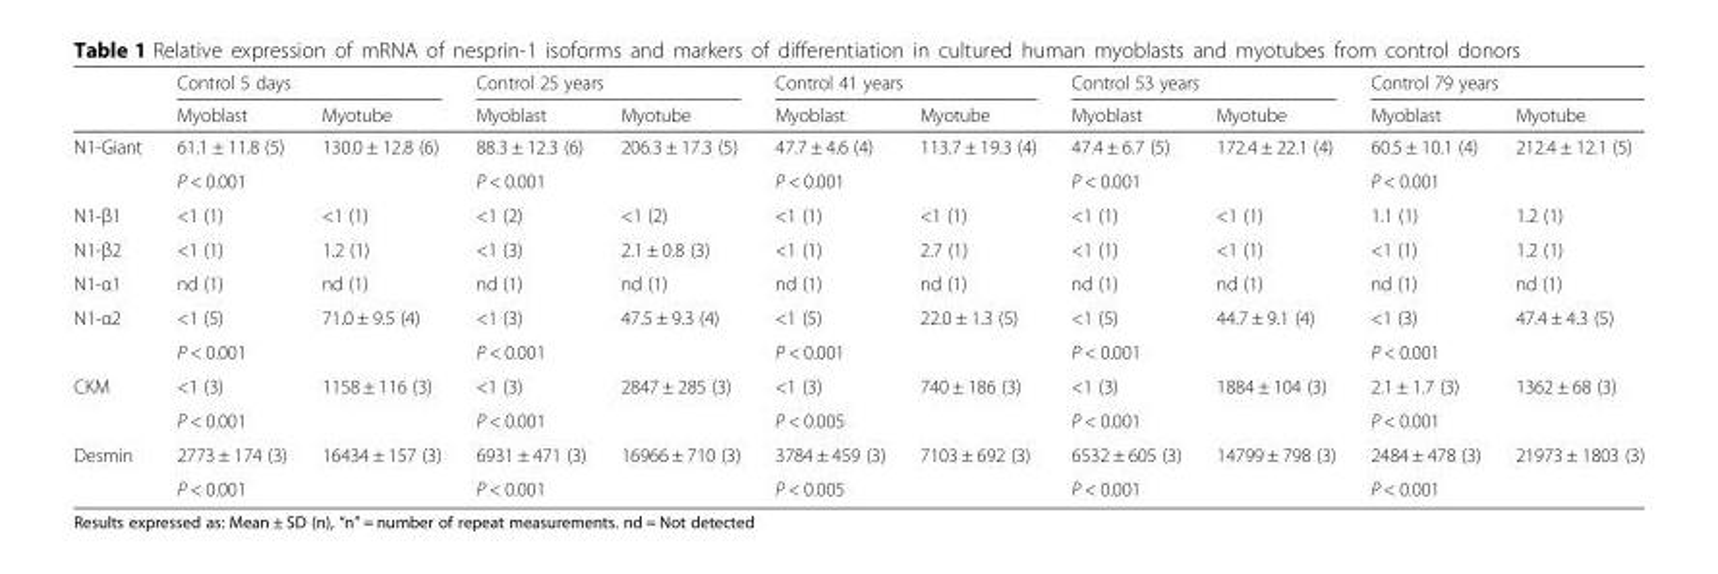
<table><thead><tr><td rowspan="2"></td><td colspan="2">Control 5 days</td><td colspan="2">Control 25 years</td><td colspan="2">Control 41 years</td><td colspan="2">Control 53 years</td><td colspan="2">Control 79 years</td></tr><tr><td>Myoblast</td><td>Myotube</td><td>Myoblast</td><td>Myotube</td><td>Myoblast</td><td>Myotube</td><td>Myoblast</td><td>Myotube</td><td>Myoblast</td><td>Myotube</td></tr></thead><tbody><tr><td rowspan="2">N1-Giant</td><td>61.1 ± 11.8 (5)</td><td>130.0 ± 12.8 (6)</td><td>88.3 ± 12.3 (6)</td><td>206.3 ± 17.3 (5)</td><td>47.7 ± 4.6 (4)</td><td>113.7 ± 19.3 (4)</td><td>47.4 ± 6.7 (5)</td><td>172.4 ± 22.1 (4)</td><td>60.5 ± 10.1 (4)</td><td>212.4 ± 12.1 (5)</td></tr><tr><td colspan="2">P &lt; 0.001</td><td colspan="2">P &lt; 0.001</td><td colspan="2">P &lt; 0.001</td><td colspan="2">P &lt; 0.001</td><td colspan="2">P &lt; 0.001</td></tr><tr><td>N1-β1</td><td>&lt;1 (1)</td><td>&lt;1 (1)</td><td>&lt;1 (2)</td><td>&lt;1 (2)</td><td>&lt;1 (1)</td><td>&lt;1 (1)</td><td>&lt;1 (1)</td><td>&lt;1 (1)</td><td>1.1 (1)</td><td>1.2 (1)</td></tr><tr><td>N1-β2</td><td>&lt;1 (1)</td><td>1.2 (1)</td><td>&lt;1 (3)</td><td>2.1 ± 0.8 (3)</td><td>&lt;1 (1)</td><td>2.7 (1)</td><td>&lt;1 (1)</td><td>&lt;1 (1)</td><td>&lt;1 (1)</td><td>1.2 (1)</td></tr><tr><td>N1-α1</td><td>nd (1)</td><td>nd (1)</td><td>nd (1)</td><td>nd (1)</td><td>nd (1)</td><td>nd (1)</td><td>nd (1)</td><td>nd (1)</td><td>nd (1)</td><td>nd (1)</td></tr><tr><td rowspan="2">N1-α2</td><td>&lt;1 (5)</td><td>71.0 ± 9.5 (4)</td><td>&lt;1 (3)</td><td>47.5 ± 9.3 (4)</td><td>&lt;1 (5)</td><td>22.0 ± 1.3 (5)</td><td>&lt;1 (5)</td><td>44.7 ± 9.1 (4)</td><td>&lt;1 (3)</td><td>47.4 ± 4.3 (5)</td></tr><tr><td colspan="2">P &lt; 0.001</td><td colspan="2">P &lt; 0.001</td><td colspan="2">P &lt; 0.001</td><td colspan="2">P &lt; 0.001</td><td colspan="2">P &lt; 0.001</td></tr><tr><td rowspan="2">CKM</td><td>&lt;1 (3)</td><td>1158 ± 116 (3)</td><td>&lt;1 (3)</td><td>2847 ± 285 (3)</td><td>&lt;1 (3)</td><td>740 ± 186 (3)</td><td>&lt;1 (3)</td><td>1884 ± 104 (3)</td><td>2.1 ± 1.7 (3)</td><td>1362 ± 68 (3)</td></tr><tr><td colspan="2">P &lt; 0.001</td><td colspan="2">P &lt; 0.001</td><td colspan="2">P &lt; 0.005</td><td colspan="2">P &lt; 0.001</td><td colspan="2">P &lt; 0.001</td></tr><tr><td rowspan="2">Desmin</td><td>2773 ± 174 (3)</td><td>16434 ± 157 (3)</td><td>6931 ± 471 (3)</td><td>16966 ± 710 (3)</td><td>3784 ± 459 (3)</td><td>7103 ± 692 (3)</td><td>6532 ± 605 (3)</td><td>14799 ± 798 (3)</td><td>2484 ± 478 (3)</td><td>21973 ± 1803 (3)</td></tr><tr><td colspan="2">P &lt; 0.001</td><td colspan="2">P &lt; 0.001</td><td colspan="2">P &lt; 0.005</td><td colspan="2">P &lt; 0.001</td><td colspan="2">P &lt; 0.001</td></tr></tbody></table>